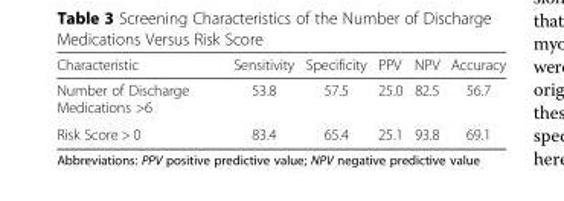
<table><thead><tr><td>Characteristic</td><td>Sensitivity</td><td>Specificity</td><td>PPV</td><td>NPV</td><td>Accuracy</td></tr></thead><tbody><tr><td>Number of Discharge Medications &gt;6</td><td>53.8</td><td>57.5</td><td>25.0</td><td>82.5</td><td>56.7</td></tr><tr><td>Risk Score &gt; 0</td><td>83.4</td><td>65.4</td><td>25.1</td><td>93.8</td><td>69.1</td></tr></tbody></table>